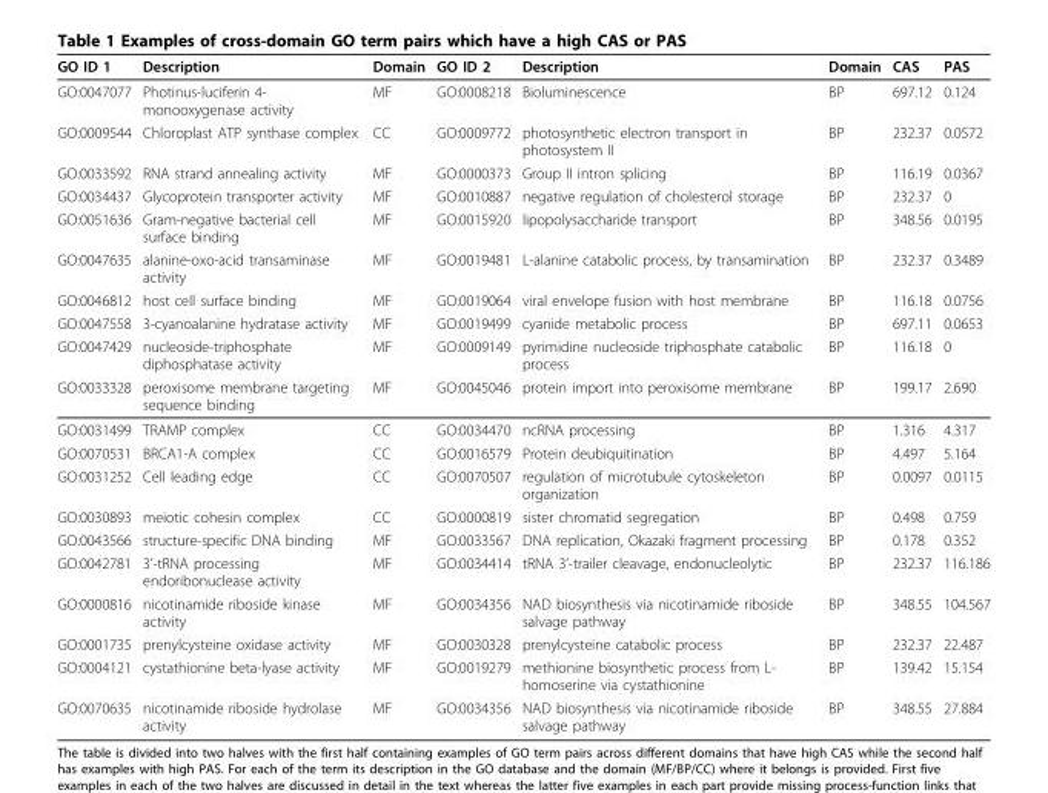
<table><thead><tr><td>GO ID 1</td><td>Description</td><td>Domain</td><td>GO ID 2</td><td>Description</td><td>Domain</td><td>CAS</td><td>PAS</td></tr></thead><tbody><tr><td>GO:0047077</td><td>Photinus-luciferin 4- monooxygenase activity</td><td>MF</td><td>GO:0008218</td><td>Bioluminescence</td><td>BP</td><td>697.12</td><td>0.124</td></tr><tr><td>GO:0009544</td><td>Chloroplast ATP synthase complex</td><td>CC</td><td>GO:0009772</td><td>photosynthetic electron transport in photosystem II</td><td>BP</td><td>232.37</td><td>0.0572</td></tr><tr><td>GO:0033592</td><td>RNA strand annealing activity</td><td>MF</td><td>GO:0000373</td><td>Group II intron splicing</td><td>BP</td><td>116.19</td><td>0.0367</td></tr><tr><td>GO:0034437</td><td>Glycoprotein transporter activity</td><td>MF</td><td>GO:0010887</td><td>negative regulation of cholesterol storage</td><td>BP</td><td>232.37</td><td>0</td></tr><tr><td>GO:0051636</td><td>Gram-negative bacterial cell surface binding</td><td>MF</td><td>GO:0015920</td><td>lipopolysaccharide transport</td><td>BP</td><td>348.56</td><td>0.0195</td></tr><tr><td>GO:0047635</td><td>alanine-oxo-acid transaminase activity</td><td>MF</td><td>GO:0019481</td><td>L-alanine catabolic process, by transamination</td><td>BP</td><td>232.37</td><td>0.3489</td></tr><tr><td>GO:0046812</td><td>host cell surface binding</td><td>MF</td><td>GO:0019064</td><td>viral envelope fusion with host membrane</td><td>BP</td><td>116.18</td><td>0.0756</td></tr><tr><td>GO:0047558</td><td>3-cyanoalanine hydratase activity</td><td>MF</td><td>GO:0019499</td><td>cyanide metabolic process</td><td>BP</td><td>697.11</td><td>0.0653</td></tr><tr><td>GO:0047429</td><td>nucleoside-triphosphate diphosphatase activity</td><td>MF</td><td>GO:0009149</td><td>pyrimidine nucleoside triphosphate catabolic process</td><td>BP</td><td>116.18</td><td>0</td></tr><tr><td>GO:0033328</td><td>peroxisome membrane targeting sequence binding</td><td>MF</td><td>GO:0045046</td><td>protein import into peroxisome membrane</td><td>BP</td><td>199.17</td><td>2.690</td></tr><tr><td>GO:0031499</td><td>TRAMP complex</td><td>CC</td><td>GO:0034470</td><td>ncRNA processing</td><td>BP</td><td>1.316</td><td>4.317</td></tr><tr><td>GO:0070531</td><td>BRCA1-A complex</td><td>CC</td><td>GO:0016579</td><td>Protein deubiquitination</td><td>BP</td><td>4.497</td><td>5.164</td></tr><tr><td>GO:0031252</td><td>Cell leading edge</td><td>CC</td><td>GO:0070507</td><td>regulation of microtubule cytoskeleton organization</td><td>BP</td><td>0.0097</td><td>0.0115</td></tr><tr><td>GO:0030893</td><td>meiotic cohesin complex</td><td>CC</td><td>GO:0000819</td><td>sister chromatid segregation</td><td>BP</td><td>0.498</td><td>0.759</td></tr><tr><td>GO:0043566</td><td>structure-specific DNA binding</td><td>MF</td><td>GO:0033567</td><td>DNA replication, Okazaki fragment processing</td><td>BP</td><td>0.178</td><td>0.352</td></tr><tr><td>GO:0042781</td><td>3’-tRNA processing endoribonuclease activity</td><td>MF</td><td>GO:0034414</td><td>tRNA 3’-trailer cleavage, endonucleolytic</td><td>BP</td><td>232.37</td><td>116.186</td></tr><tr><td>GO:0000816</td><td>nicotinamide riboside kinase activity</td><td>MF</td><td>GO:0034356</td><td>NAD biosynthesis via nicotinamide riboside salvage pathway</td><td>BP</td><td>348.55</td><td>104.567</td></tr><tr><td>GO:0001735</td><td>prenylcysteine oxidase activity</td><td>MF</td><td>GO:0030328</td><td>prenylcysteine catabolic process</td><td>BP</td><td>232.37</td><td>22.487</td></tr><tr><td>GO:0004121</td><td>cystathionine beta-lyase activity</td><td>MF</td><td>GO:0019279</td><td>methionine biosynthetic process from L- homoserine via cystathionine</td><td>BP</td><td>139.42</td><td>15.154</td></tr><tr><td>GO:0070635</td><td>nicotinamide riboside hydrolase activity</td><td>MF</td><td>GO:0034356</td><td>NAD biosynthesis via nicotinamide riboside salvage pathway</td><td>BP</td><td>348.55</td><td>27.884</td></tr></tbody></table>